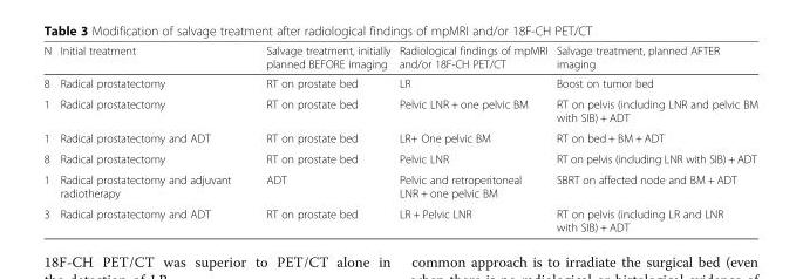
<table><thead><tr><td>N</td><td>Initial treatment</td><td>Salvage treatment, initially planned BEFORE imaging</td><td>Radiological findings of mpMRI and/or 18F-CH PET/CT</td><td>Salvage treatment, planned AFTER imaging</td></tr></thead><tbody><tr><td>8</td><td>Radical prostatectomy</td><td>RT on prostate bed</td><td>LR</td><td>Boost on tumor bed</td></tr><tr><td>1</td><td>Radical prostatectomy</td><td>RT on prostate bed</td><td>Pelvic LNR + one pelvic BM</td><td>RT on pelvis (including LNR and pelvic BM with SIB) + ADT</td></tr><tr><td>1</td><td>Radical prostatectomy and ADT</td><td>RT on prostate bed</td><td>LR+ One pelvic BM</td><td>RT on bed + BM + ADT</td></tr><tr><td>8</td><td>Radical prostatectomy</td><td>RT on prostate bed</td><td>Pelvic LNR</td><td>RT on pelvis (including LNR with SIB) + ADT</td></tr><tr><td>1</td><td>Radical prostatectomy and adjuvant radiotherapy</td><td>ADT</td><td>Pelvic and retroperitoneal LNR + one pelvic BM</td><td>SBRT on affected node and BM + ADT</td></tr><tr><td>3</td><td>Radical prostatectomy and ADT</td><td>RT on prostate bed</td><td>LR + Pelvic LNR</td><td>RT on pelvis (including LR and LNR with SIB) + ADT</td></tr></tbody></table>